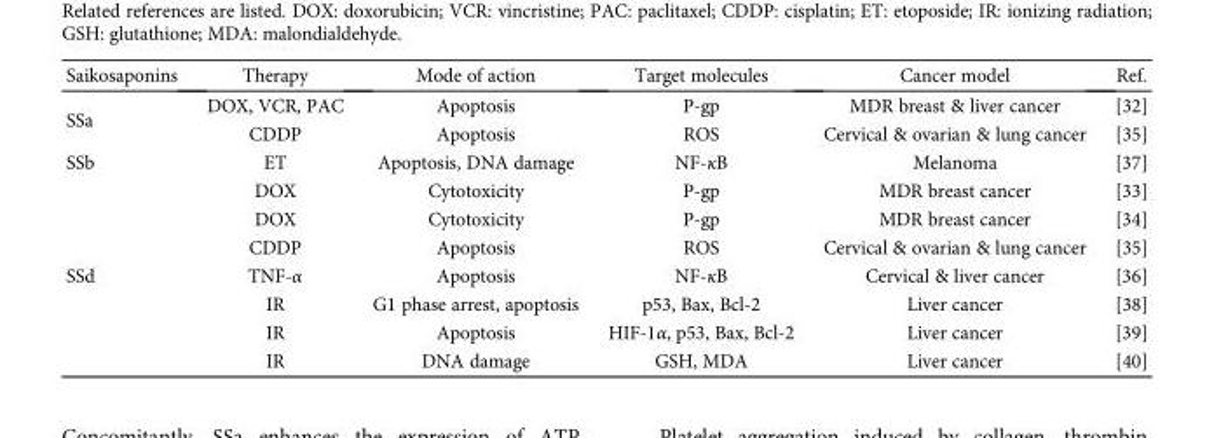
<table><thead><tr><td>Saikosaponins</td><td>Therapy</td><td>Mode of action</td><td>Target molecules</td><td>Cancer model</td><td>Ref.</td></tr></thead><tbody><tr><td rowspan="2">SSa</td><td>DOX, VCR, PAC</td><td>Apoptosis</td><td>P-gp</td><td>MDR breast &amp; liver cancer</td><td>[32]</td></tr><tr><td>CDDP</td><td>Apoptosis</td><td>ROS</td><td>Cervical &amp; ovarian &amp; lung cancer</td><td>[35]</td></tr><tr><td>SSb</td><td>ET</td><td>Apoptosis, DNA damage</td><td>NF-κB</td><td>Melanoma</td><td>[37]</td></tr><tr><td rowspan="7">SSd</td><td>DOX</td><td>Cytotoxicity</td><td>P-gp</td><td>MDR breast cancer</td><td>[33]</td></tr><tr><td>DOX</td><td>Cytotoxicity</td><td>P-gp</td><td>MDR breast cancer</td><td>[34]</td></tr><tr><td>CDDP</td><td>Apoptosis</td><td>ROS</td><td>Cervical &amp; ovarian &amp; lung cancer</td><td>[35]</td></tr><tr><td>TNF-α</td><td>Apoptosis</td><td>NF-κB</td><td>Cervical &amp; liver cancer</td><td>[36]</td></tr><tr><td>IR</td><td>G1 phase arrest, apoptosis</td><td>p53, Bax, Bcl-2</td><td>Liver cancer</td><td>[38]</td></tr><tr><td>IR</td><td>Apoptosis</td><td>HIF-1α, p53, Bax, Bcl-2</td><td>Liver cancer</td><td>[39]</td></tr><tr><td>IR</td><td>DNA damage</td><td>GSH, MDA</td><td>Liver cancer</td><td>[40]</td></tr></tbody></table>